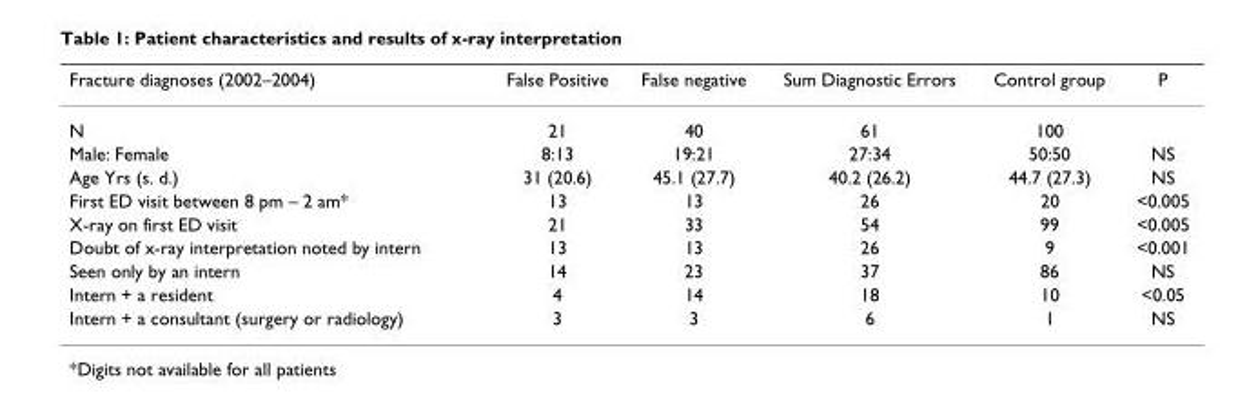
<table><thead><tr><td>Fracture diagnoses (2002–2004)</td><td>False Positive</td><td>False negative</td><td>Sum Diagnostic Errors</td><td>Control group</td><td>P</td></tr></thead><tbody><tr><td>N</td><td>21</td><td>40</td><td>61</td><td>100</td><td></td></tr><tr><td>Male: Female</td><td>8:13</td><td>19:21</td><td>27:34</td><td>50:50</td><td>NS</td></tr><tr><td>Age Yrs (s. d.)</td><td>31 (20.6)</td><td>45.1 (27.7)</td><td>40.2 (26.2)</td><td>44.7 (27.3)</td><td>NS</td></tr><tr><td>First ED visit between 8 pm – 2 am*</td><td>13</td><td>13</td><td>26</td><td>20</td><td>&lt;0.005</td></tr><tr><td>X-ray on first ED visit</td><td>21</td><td>33</td><td>54</td><td>99</td><td>&lt;0.005</td></tr><tr><td>Doubt of x-ray interpretation noted by intern</td><td>13</td><td>13</td><td>26</td><td>9</td><td>&lt;0.001</td></tr><tr><td>Seen only by an intern</td><td>14</td><td>23</td><td>37</td><td>86</td><td>NS</td></tr><tr><td>Intern + a resident</td><td>4</td><td>14</td><td>18</td><td>10</td><td>&lt;0.05</td></tr><tr><td>Intern + a consultant (surgery or radiology)</td><td>3</td><td>3</td><td>6</td><td>1</td><td>NS</td></tr></tbody></table>